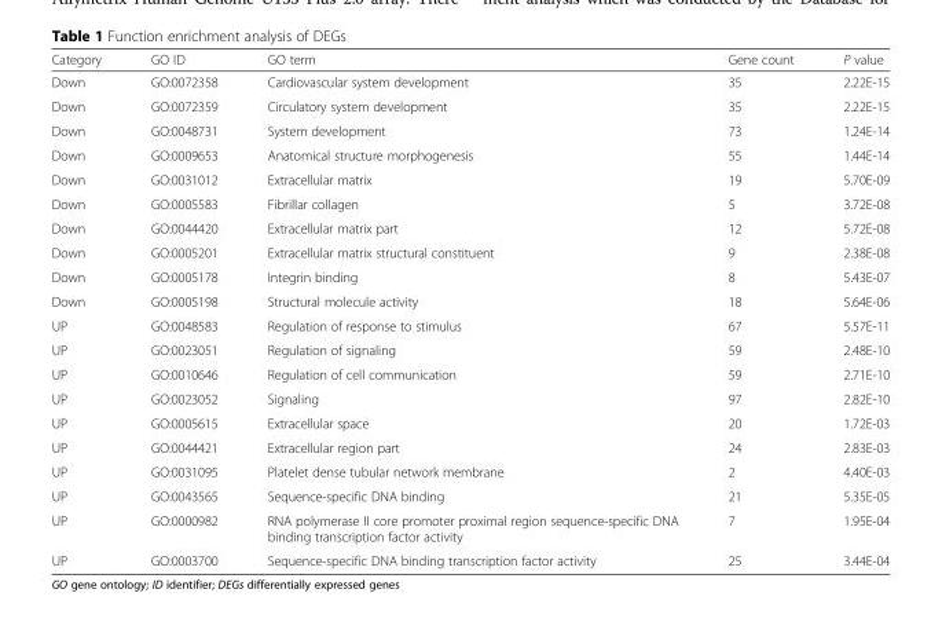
<table><thead><tr><td>Category</td><td>GO ID</td><td>GO term</td><td>Gene count</td><td>P value</td></tr></thead><tbody><tr><td>Down</td><td>GO:0072358</td><td>Cardiovascular system development</td><td>35</td><td>2.22E-15</td></tr><tr><td>Down</td><td>GO:0072359</td><td>Circulatory system development</td><td>35</td><td>2.22E-15</td></tr><tr><td>Down</td><td>GO:0048731</td><td>System development</td><td>73</td><td>1.24E-14</td></tr><tr><td>Down</td><td>GO:0009653</td><td>Anatomical structure morphogenesis</td><td>55</td><td>1.44E-14</td></tr><tr><td>Down</td><td>GO:0031012</td><td>Extracellular matrix</td><td>19</td><td>5.70E-09</td></tr><tr><td>Down</td><td>GO:0005583</td><td>Fibrillar collagen</td><td>5</td><td>3.72E-08</td></tr><tr><td>Down</td><td>GO:0044420</td><td>Extracellular matrix part</td><td>12</td><td>5.72E-08</td></tr><tr><td>Down</td><td>GO:0005201</td><td>Extracellular matrix structural constituent</td><td>9</td><td>2.38E-08</td></tr><tr><td>Down</td><td>GO:0005178</td><td>Integrin binding</td><td>8</td><td>5.43E-07</td></tr><tr><td>Down</td><td>GO:0005198</td><td>Structural molecule activity</td><td>18</td><td>5.64E-06</td></tr><tr><td>UP</td><td>GO:0048583</td><td>Regulation of response to stimulus</td><td>67</td><td>5.57E-11</td></tr><tr><td>UP</td><td>GO:0023051</td><td>Regulation of signaling</td><td>59</td><td>2.48E-10</td></tr><tr><td>UP</td><td>GO:0010646</td><td>Regulation of cell communication</td><td>59</td><td>2.71E-10</td></tr><tr><td>UP</td><td>GO:0023052</td><td>Signaling</td><td>97</td><td>2.82E-10</td></tr><tr><td>UP</td><td>GO:0005615</td><td>Extracellular space</td><td>20</td><td>1.72E-03</td></tr><tr><td>UP</td><td>GO:0044421</td><td>Extracellular region part</td><td>24</td><td>2.83E-03</td></tr><tr><td>UP</td><td>GO:0031095</td><td>Platelet dense tubular network membrane</td><td>2</td><td>4.40E-03</td></tr><tr><td>UP</td><td>GO:0043565</td><td>Sequence-specific DNA binding</td><td>21</td><td>5.35E-05</td></tr><tr><td>UP</td><td>GO:0000982</td><td>RNA polymerase II core promoter proximal region sequence-specific DNA binding transcription factor activity</td><td>7</td><td>1.95E-04</td></tr><tr><td>UP</td><td>GO:0003700</td><td>Sequence-specific DNA binding transcription factor activity</td><td>25</td><td>3.44E-04</td></tr></tbody></table>